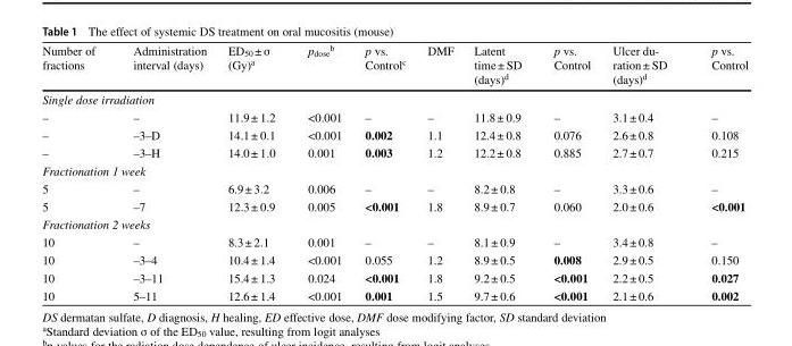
<table><thead><tr><td>Number of fractions</td><td>Administration interval (days)</td><td>ED<sub>50</sub>± σ (Gy)<sup>a</sup></td><td>p<sub>dose</sub><sup>b</sup></td><td>p vs. Control<sup>c</sup></td><td>DMF</td><td>Latent time± SD (days)<sup>d</sup></td><td>p vs. Control</td><td>Ulcer du- ration± SD (days)d</td><td>p vs. Control</td></tr></thead><tbody><tr><td colspan="10">Single dose irradiation</td></tr><tr><td>–</td><td>–</td><td>11.9± 1.2</td><td>&lt;0.001</td><td>–</td><td>–</td><td>11.8± 0.9</td><td>–</td><td>3.1± 0.4</td><td>–</td></tr><tr><td>–</td><td>–3–D</td><td>14.1± 0.1</td><td>&lt;0.001</td><td>0.002</td><td>1.1</td><td>12.4± 0.8</td><td>0.076</td><td>2.6± 0.8</td><td>0.108</td></tr><tr><td>–</td><td>–3–H</td><td>14.0± 1.0</td><td>0.001</td><td>0.003</td><td>1.2</td><td>12.2± 0.8</td><td>0.885</td><td>2.7± 0.7</td><td>0.215</td></tr><tr><td colspan="10">Fractionation 1 week</td></tr><tr><td>5</td><td>–</td><td>6.9± 3.2</td><td>0.006</td><td>–</td><td>–</td><td>8.2± 0.8</td><td>–</td><td>3.3± 0.6</td><td>–</td></tr><tr><td>5</td><td>–7</td><td>12.3± 0.9</td><td>0.005</td><td>&lt;0.001</td><td>1.8</td><td>8.9± 0.7</td><td>0.060</td><td>2.0± 0.6</td><td>&lt;0.001</td></tr><tr><td colspan="10">Fractionation 2 weeks</td></tr><tr><td>10</td><td>–</td><td>8.3± 2.1</td><td>0.001</td><td>–</td><td>–</td><td>8.1± 0.9</td><td>–</td><td>3.4± 0.8</td><td>–</td></tr><tr><td>10</td><td>–3–4</td><td>10.4± 1.4</td><td>&lt;0.001</td><td>0.055</td><td>1.2</td><td>8.9± 0.5</td><td>0.008</td><td>2.9± 0.5</td><td>0.150</td></tr><tr><td>10</td><td>–3–11</td><td>15.4± 1.3</td><td>0.024</td><td>&lt;0.001</td><td>1.8</td><td>9.2± 0.5</td><td>&lt;0.001</td><td>2.2± 0.5</td><td>0.027</td></tr><tr><td>10</td><td>5–11</td><td>12.6± 1.4</td><td>&lt;0.001</td><td>0.001</td><td>1.5</td><td>9.7± 0.6</td><td>&lt;0.001</td><td>2.1± 0.6</td><td>0.002</td></tr></tbody></table>